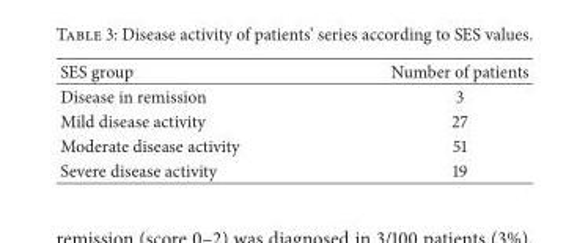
<table><thead><tr><td>SES group</td><td>Number of patients</td></tr></thead><tbody><tr><td>Disease in remission</td><td>3</td></tr><tr><td>Mild disease activity</td><td>27</td></tr><tr><td>Moderate disease activity</td><td>51</td></tr><tr><td>Severe disease activity</td><td>19</td></tr></tbody></table>